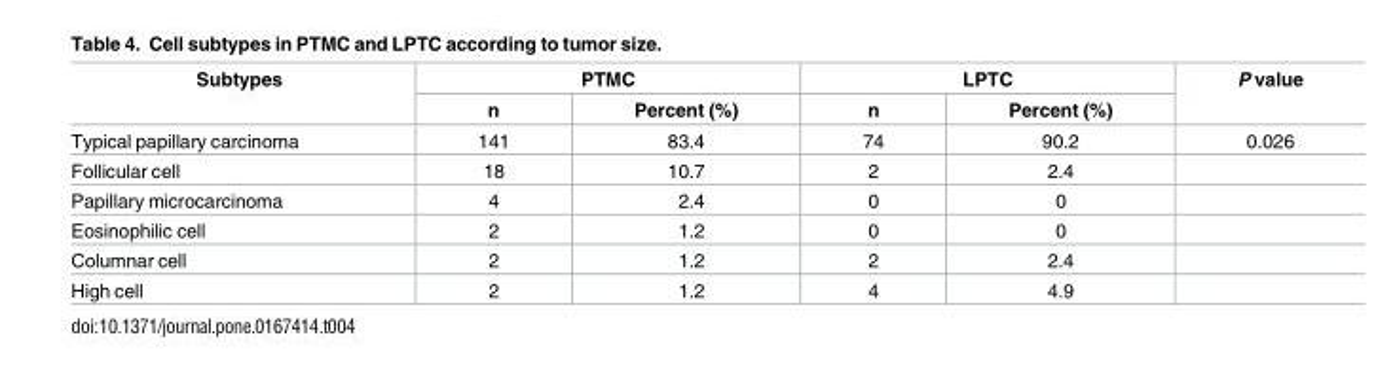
<table><thead><tr><td rowspan="2">Subtypes</td><td colspan="2">PTMC</td><td colspan="2">LPTC</td><td rowspan="2">P value</td></tr><tr><td>n</td><td>Percent (%)</td><td>n</td><td>Percent (%)</td></tr></thead><tbody><tr><td>Typical papillary carcinoma</td><td>141</td><td>83.4</td><td>74</td><td>90.2</td><td>0.026</td></tr><tr><td>Follicular cell</td><td>18</td><td>10.7</td><td>2</td><td>2.4</td><td></td></tr><tr><td>Papillary microcarcinoma</td><td>4</td><td>2.4</td><td>0</td><td>0</td><td></td></tr><tr><td>Eosinophilic cell</td><td>2</td><td>1.2</td><td>0</td><td>0</td><td></td></tr><tr><td>Columnar cell</td><td>2</td><td>1.2</td><td>2</td><td>2.4</td><td></td></tr><tr><td>High cell</td><td>2</td><td>1.2</td><td>4</td><td>4.9</td><td></td></tr></tbody></table>